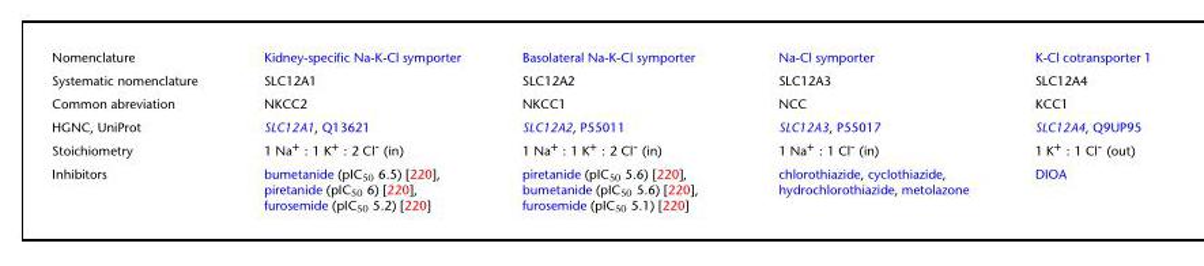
<table><tbody><tr><td>Nomenclature</td><td>Kidney-specific Na-K-Cl symporter</td><td>Basolateral Na-K-Cl symporter</td><td>Na-Cl symporter</td><td>K-Cl cotransporter 1</td></tr><tr><td>Systematic nomenclature</td><td>SLC12A1</td><td>SLC12A2</td><td>SLC12A3</td><td>SLC12A4</td></tr><tr><td>Common abreviation</td><td>NKCC2</td><td>NKCC1</td><td>NCC</td><td>KCC1</td></tr><tr><td>HGNC, UniProt</td><td>SLC12A1, Q13621</td><td>SLC12A2, P55011</td><td>SLC12A3, P55017</td><td>SLC12A4, Q9UP95</td></tr><tr><td>Stoichiometry</td><td>1 Na<sup>+</sup> : 1 K<sup>+</sup> : 2 Cl<sup>-</sup> (in)</td><td>1 Na<sup>+</sup> : 1 K<sup>+</sup> : 2 Cl<sup>-</sup> (in)</td><td>1 Na<sup>+</sup> : 1 Cl<sup>-</sup> (in)</td><td>1 K<sup>+</sup> : 1 Cl<sup>-</sup> (out)</td></tr><tr><td>Inhibitors</td><td>bumetanide (pIC<sub>50</sub> 6.5) [220], piretanide (pIC<sub>50</sub> 6) [220], furosemide (pIC<sub>50</sub> 5.2) [220]</td><td>piretanide (pIC<sub>50</sub> 5.6) [220], bumetanide (pIC<sub>50</sub> 5.6) [220], furosemide (pIC<sub>50</sub> 5.1) [220]</td><td>chlorothiazide, cyclothiazide, hydrochlorothiazide, metolazone</td><td>DIOA</td></tr></tbody></table>